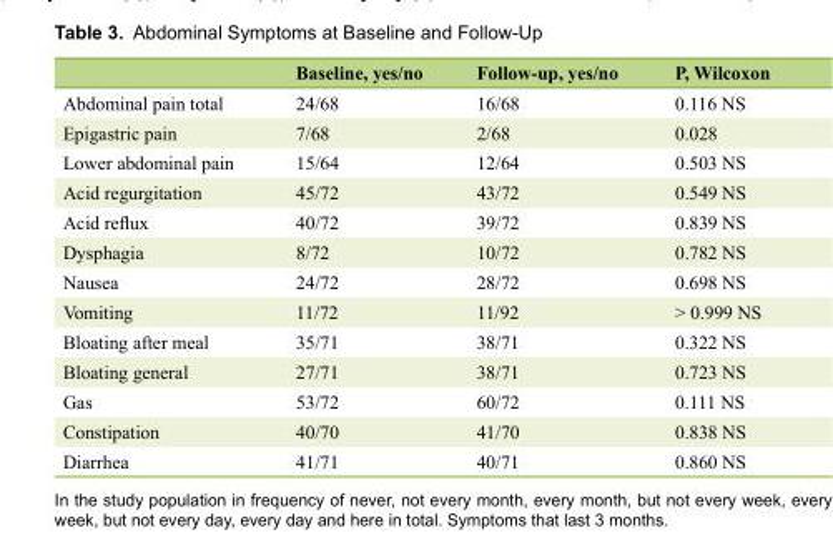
<table><thead><tr><td></td><td>Baseline, yes/no</td><td>Follow-up, yes/no</td><td>P, Wilcoxon</td></tr></thead><tbody><tr><td>Abdominal pain total</td><td>24/68</td><td>16/68</td><td>0.116 NS</td></tr><tr><td>Epigastric pain</td><td>7/68</td><td>2/68</td><td>0.028</td></tr><tr><td>Lower abdominal pain</td><td>15/64</td><td>12/64</td><td>0.503 NS</td></tr><tr><td>Acid regurgitation</td><td>45/72</td><td>43/72</td><td>0.549 NS</td></tr><tr><td>Acid reflux</td><td>40/72</td><td>39/72</td><td>0.839 NS</td></tr><tr><td>Dysphagia</td><td>8/72</td><td>10/72</td><td>0.782 NS</td></tr><tr><td>Nausea</td><td>24/72</td><td>28/72</td><td>0.698 NS</td></tr><tr><td>Vomiting</td><td>11/72</td><td>11/92</td><td>&gt; 0.999 NS</td></tr><tr><td>Bloating after meal</td><td>35/71</td><td>38/71</td><td>0.322 NS</td></tr><tr><td>Bloating general</td><td>27/71</td><td>38/71</td><td>0.723 NS</td></tr><tr><td>Gas</td><td>53/72</td><td>60/72</td><td>0.111 NS</td></tr><tr><td>Constipation</td><td>40/70</td><td>41/70</td><td>0.838 NS</td></tr><tr><td>Diarrhea</td><td>41/71</td><td>40/71</td><td>0.860 NS</td></tr></tbody></table>